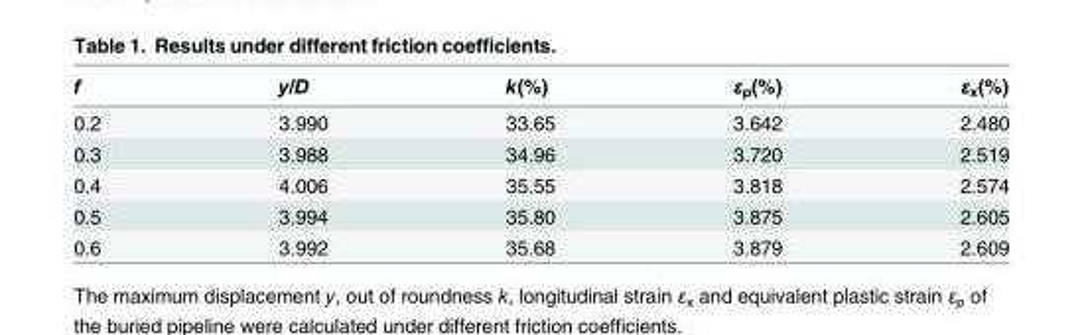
<table><thead><tr><td>f</td><td>y/D</td><td>k(%)</td><td>ε<sub>p</sub>(%)</td><td>ε<sub>x</sub>(%)</td></tr></thead><tbody><tr><td>0.2</td><td>3.990</td><td>33.65</td><td>3.642</td><td>2.480</td></tr><tr><td>0.3</td><td>3.988</td><td>34.96</td><td>3.720</td><td>2.519</td></tr><tr><td>0.4</td><td>4.006</td><td>35.55</td><td>3.818</td><td>2.574</td></tr><tr><td>0.5</td><td>3.994</td><td>35.80</td><td>3.875</td><td>2.605</td></tr><tr><td>0.6</td><td>3.992</td><td>35.68</td><td>3.879</td><td>2.609</td></tr></tbody></table>